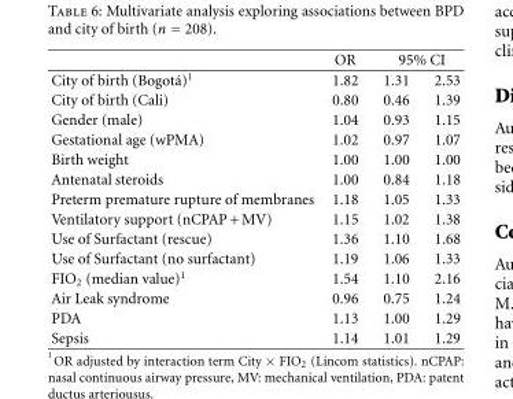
<table><thead><tr><td rowspan="2">City of birth (Bogot´a)1</td><td rowspan="2">OR 1.82</td><td colspan="2">95% CI</td></tr><tr><td>1.31</td><td>2.53</td></tr></thead><tbody><tr><td>City of birth (Cali)</td><td>0.80</td><td>0.46</td><td>1.39</td></tr><tr><td>Gender (male)</td><td>1.04</td><td>0.93</td><td>1.15</td></tr><tr><td>Gestational age (wPMA)</td><td>1.02</td><td>0.97</td><td>1.07</td></tr><tr><td>Birth weight</td><td>1.00</td><td>1.00</td><td>1.00</td></tr><tr><td>Antenatal steroids</td><td>1.00</td><td>0.84</td><td>1.18</td></tr><tr><td>Preterm premature rupture of membranes</td><td>1.18</td><td>1.05</td><td>1.33</td></tr><tr><td>Ventilatory support (nCPAP + MV)</td><td>1.15</td><td>1.02</td><td>1.38</td></tr><tr><td>Use of Surfactant (rescue)</td><td>1.36</td><td>1.10</td><td>1.68</td></tr><tr><td>Use of Surfactant (no surfactant)</td><td>1.19</td><td>1.06</td><td>1.33</td></tr><tr><td>FIO<sub>2</sub> (median value)<sup>1</sup></td><td>1.54</td><td>1.10</td><td>2.16</td></tr><tr><td>Air Leak syndrome</td><td>0.96</td><td>0.75</td><td>1.24</td></tr><tr><td>PDA</td><td>1.13</td><td>1.00</td><td>1.29</td></tr><tr><td>Sepsis</td><td>1.14</td><td>1.01</td><td>1.29</td></tr></tbody></table>